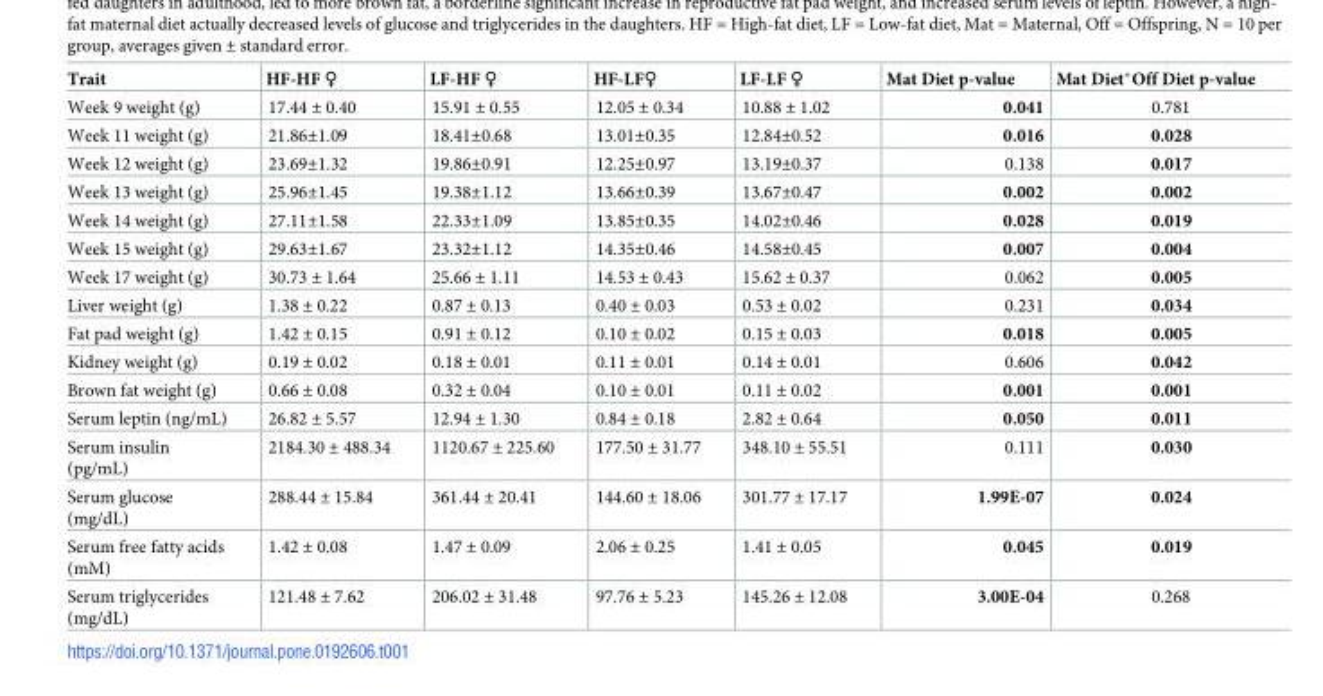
<table><thead><tr><td>Trait</td><td>HF-HF ♀</td><td>LF-HF ♀</td><td>HF-LF♀</td><td>LF-LF ♀</td><td>Mat Diet p-value</td><td>Mat Diet*Off Diet p-value</td></tr></thead><tbody><tr><td>Week 9 weight (g)</td><td>17.44 ± 0.40</td><td>15.91 ± 0.55</td><td>12.05 ± 0.34</td><td>10.88 ± 1.02</td><td>0.041</td><td>0.781</td></tr><tr><td>Week 11 weight (g)</td><td>21.86±1.09</td><td>18.41±0.68</td><td>13.01±0.35</td><td>12.84±0.52</td><td>0.016</td><td>0.028</td></tr><tr><td>Week 12 weight (g)</td><td>23.69±1.32</td><td>19.86±0.91</td><td>12.25±0.97</td><td>13.19±0.37</td><td>0.138</td><td>0.017</td></tr><tr><td>Week 13 weight (g)</td><td>25.96±1.45</td><td>19.38±1.12</td><td>13.66±0.39</td><td>13.67±0.47</td><td>0.002</td><td>0.002</td></tr><tr><td>Week 14 weight (g)</td><td>27.11±1.58</td><td>22.33±1.09</td><td>13.85±0.35</td><td>14.02±0.46</td><td>0.028</td><td>0.019</td></tr><tr><td>Week 15 weight (g)</td><td>29.63±1.67</td><td>23.32±1.12</td><td>14.35±0.46</td><td>14.58±0.45</td><td>0.007</td><td>0.004</td></tr><tr><td>Week 17 weight (g)</td><td>30.73 ± 1.64</td><td>25.66 ± 1.11</td><td>14.53 ± 0.43</td><td>15.62 ± 0.37</td><td>0.062</td><td>0.005</td></tr><tr><td>Liver weight (g)</td><td>1.38 ± 0.22</td><td>0.87 ± 0.13</td><td>0.40 ± 0.03</td><td>0.53 ± 0.02</td><td>0.231</td><td>0.034</td></tr><tr><td>Fat pad weight (g)</td><td>1.42 ± 0.15</td><td>0.91 ± 0.12</td><td>0.10 ± 0.02</td><td>0.15 ± 0.03</td><td>0.018</td><td>0.005</td></tr><tr><td>Kidney weight (g)</td><td>0.19 ± 0.02</td><td>0.18 ± 0.01</td><td>0.11 ± 0.01</td><td>0.14 ± 0.01</td><td>0.606</td><td>0.042</td></tr><tr><td>Brown fat weight (g)</td><td>0.66 ± 0.08</td><td>0.32 ± 0.04</td><td>0.10 ± 0.01</td><td>0.11 ± 0.02</td><td>0.001</td><td>0.001</td></tr><tr><td>Serum leptin (ng/mL)</td><td>26.82 ± 5.57</td><td>12.94 ± 1.30</td><td>0.84 ± 0.18</td><td>2.82 ± 0.64</td><td>0.050</td><td>0.011</td></tr><tr><td>Serum insulin (pg/mL)</td><td>2184.30 ± 488.34</td><td>1120.67 ± 225.60</td><td>177.50 ± 31.77</td><td>348.10 ± 55.51</td><td>0.111</td><td>0.030</td></tr><tr><td>Serum glucose (mg/dL)</td><td>288.44 ± 15.84</td><td>361.44 ± 20.41</td><td>144.60 ± 18.06</td><td>301.77 ± 17.17</td><td>1.99E-07</td><td>0.024</td></tr><tr><td>Serum free fatty acids (mM)</td><td>1.42 ± 0.08</td><td>1.47 ± 0.09</td><td>2.06 ± 0.25</td><td>1.41 ± 0.05</td><td>0.045</td><td>0.019</td></tr><tr><td>Serum triglycerides (mg/dL)</td><td>121.48 ± 7.62</td><td>206.02 ± 31.48</td><td>97.76 ± 5.23</td><td>145.26 ± 12.08</td><td>3.00E-04</td><td>0.268</td></tr></tbody></table>